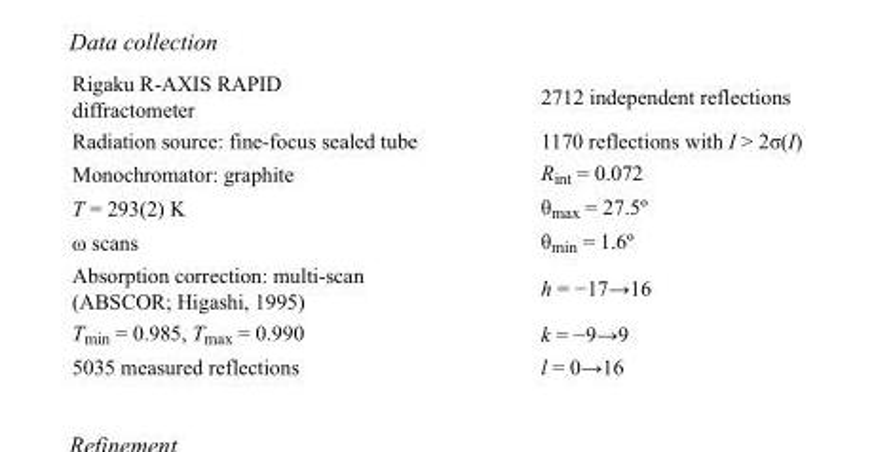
<table><tbody><tr><td>Rigaku R-AXIS RAPID diffractometer</td><td>2712 independent reflections</td></tr><tr><td>Radiation source: fine-focus sealed tube</td><td>1170 reflections with I &gt; 2σ(I)</td></tr><tr><td>Monochromator: graphite</td><td>R<sub>int</sub> = 0.072</td></tr><tr><td>T = 293(2) K</td><td>θ<sub>max</sub> = 27.5º</td></tr><tr><td>ω scans</td><td>θ<sub>min</sub> = 1.6º</td></tr><tr><td>Absorption correction: multi-scan (ABSCOR; Higashi, 1995)</td><td>h = −17→16</td></tr><tr><td>T<sub>min</sub> = 0.985, T<sub>max</sub> = 0.990</td><td>k = −9→9</td></tr><tr><td>5035 measured reflections</td><td>l = 0→16</td></tr></tbody></table>